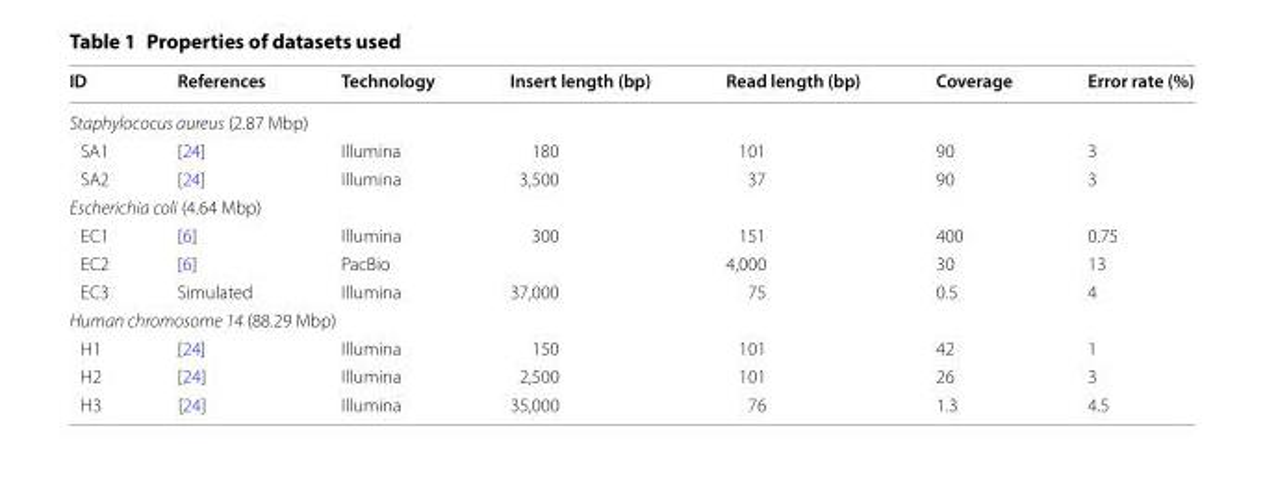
<table><thead><tr><td>ID</td><td>References</td><td>Technology</td><td>Insert length (bp)</td><td>Read length (bp)</td><td>Coverage</td><td>Error rate (%)</td></tr></thead><tbody><tr><td colspan="7">Staphylococus aureus (2.87 Mbp)</td></tr><tr><td>SA1</td><td>[24]</td><td>Illumina</td><td>180</td><td>101</td><td>90</td><td>3</td></tr><tr><td>SA2</td><td>[24]</td><td>Illumina</td><td>3,500</td><td>37</td><td>90</td><td>3</td></tr><tr><td colspan="7">Escherichia coli (4.64 Mbp)</td></tr><tr><td>EC1</td><td>[6]</td><td>Illumina</td><td>300</td><td>151</td><td>400</td><td>0.75</td></tr><tr><td>EC2</td><td>[6]</td><td>PacBio</td><td></td><td>4,000</td><td>30</td><td>13</td></tr><tr><td>EC3</td><td>Simulated</td><td>Illumina</td><td>37,000</td><td>75</td><td>0.5</td><td>4</td></tr><tr><td colspan="7">Human chromosome 14 (88.29 Mbp)</td></tr><tr><td>H1</td><td>[24]</td><td>Illumina</td><td>150</td><td>101</td><td>42</td><td>1</td></tr><tr><td>H2</td><td>[24]</td><td>Illumina</td><td>2,500</td><td>101</td><td>26</td><td>3</td></tr><tr><td>H3</td><td>[24]</td><td>Illumina</td><td>35,000</td><td>76</td><td>1.3</td><td>4.5</td></tr></tbody></table>